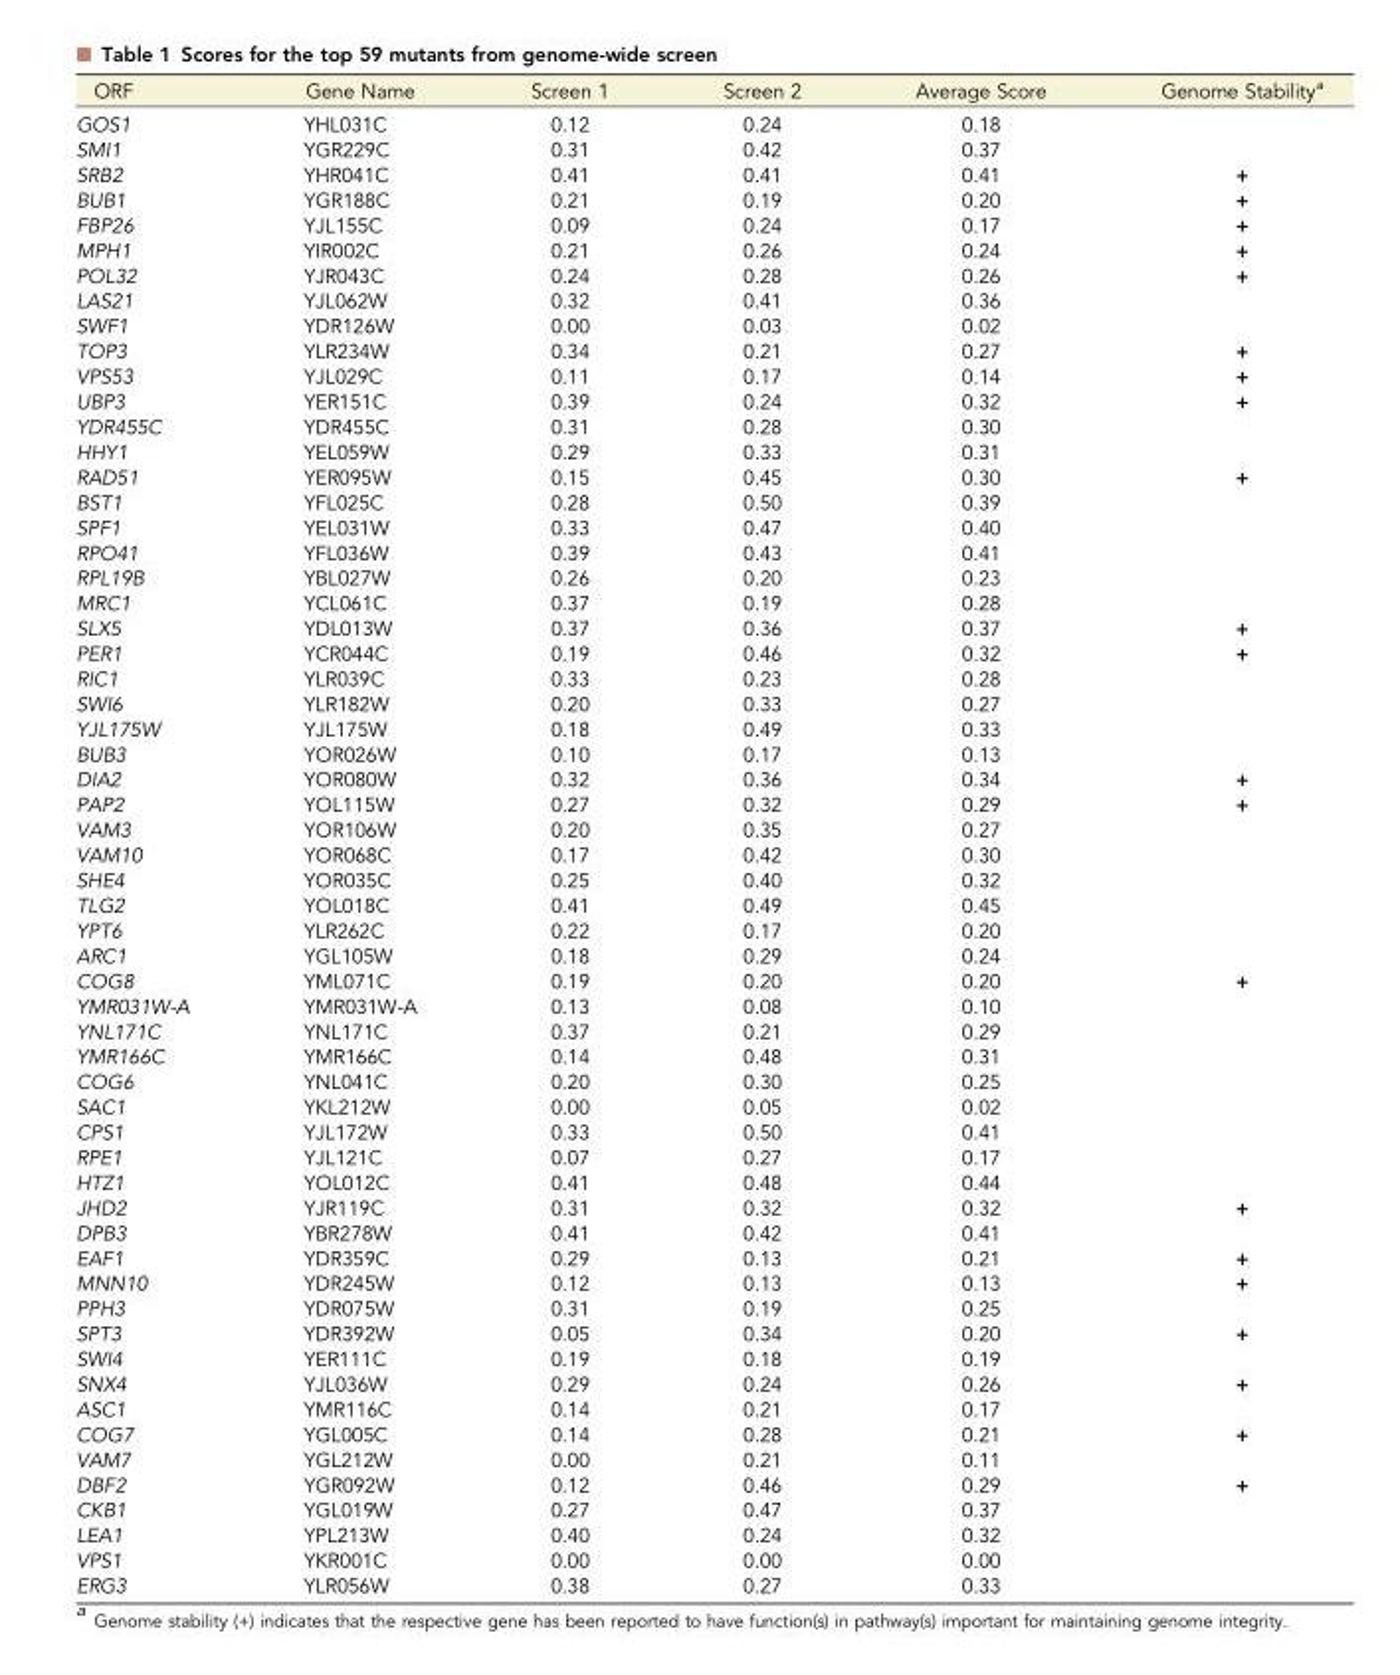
<table><thead><tr><td>ORF</td><td>Gene Name</td><td>Screen 1</td><td>Screen 2</td><td>Average Score</td><td>Genome Stabilitya</td></tr></thead><tbody><tr><td>GOS1</td><td>YHL031C</td><td>0.12</td><td>0.24</td><td>0.18</td><td></td></tr><tr><td>SMI1</td><td>YGR229C</td><td>0.31</td><td>0.42</td><td>0.37</td><td></td></tr><tr><td>SRB2</td><td>YHR041C</td><td>0.41</td><td>0.41</td><td>0.41</td><td>+</td></tr><tr><td>BUB1</td><td>YGR188C</td><td>0.21</td><td>0.19</td><td>0.20</td><td>+</td></tr><tr><td>FBP26</td><td>YJL155C</td><td>0.09</td><td>0.24</td><td>0.17</td><td>+</td></tr><tr><td>MPH1</td><td>YIR002C</td><td>0.21</td><td>0.26</td><td>0.24</td><td>+</td></tr><tr><td>POL32</td><td>YJR043C</td><td>0.24</td><td>0.28</td><td>0.26</td><td>+</td></tr><tr><td>LAS21</td><td>YJL062W</td><td>0.32</td><td>0.41</td><td>0.36</td><td></td></tr><tr><td>SWF1</td><td>YDR126W</td><td>0.00</td><td>0.03</td><td>0.02</td><td></td></tr><tr><td>TOP3</td><td>YLR234W</td><td>0.34</td><td>0.21</td><td>0.27</td><td>+</td></tr><tr><td>VPS53</td><td>YJL029C</td><td>0.11</td><td>0.17</td><td>0.14</td><td>+</td></tr><tr><td>UBP3</td><td>YER151C</td><td>0.39</td><td>0.24</td><td>0.32</td><td>+</td></tr><tr><td>YDR455C</td><td>YDR455C</td><td>0.31</td><td>0.28</td><td>0.30</td><td></td></tr><tr><td>HHY1</td><td>YEL059W</td><td>0.29</td><td>0.33</td><td>0.31</td><td></td></tr><tr><td>RAD51</td><td>YER095W</td><td>0.15</td><td>0.45</td><td>0.30</td><td>+</td></tr><tr><td>BST1</td><td>YFL025C</td><td>0.28</td><td>0.50</td><td>0.39</td><td></td></tr><tr><td>SPF1</td><td>YEL031W</td><td>0.33</td><td>0.47</td><td>0.40</td><td></td></tr><tr><td>RPO41</td><td>YFL036W</td><td>0.39</td><td>0.43</td><td>0.41</td><td></td></tr><tr><td>RPL19B</td><td>YBL027W</td><td>0.26</td><td>0.20</td><td>0.23</td><td></td></tr><tr><td>MRC1</td><td>YCL061C</td><td>0.37</td><td>0.19</td><td>0.28</td><td></td></tr><tr><td>SLX5</td><td>YDL013W</td><td>0.37</td><td>0.36</td><td>0.37</td><td>+</td></tr><tr><td>PER1</td><td>YCR044C</td><td>0.19</td><td>0.46</td><td>0.32</td><td>+</td></tr><tr><td>RIC1</td><td>YLR039C</td><td>0.33</td><td>0.23</td><td>0.28</td><td></td></tr><tr><td>SWI6</td><td>YLR182W</td><td>0.20</td><td>0.33</td><td>0.27</td><td></td></tr><tr><td>YJL175W</td><td>YJL175W</td><td>0.18</td><td>0.49</td><td>0.33</td><td></td></tr><tr><td>BUB3</td><td>YOR026W</td><td>0.10</td><td>0.17</td><td>0.13</td><td></td></tr><tr><td>DIA2</td><td>YOR080W</td><td>0.32</td><td>0.36</td><td>0.34</td><td>+</td></tr><tr><td>PAP2</td><td>YOL115W</td><td>0.27</td><td>0.32</td><td>0.29</td><td>+</td></tr><tr><td>VAM3</td><td>YOR106W</td><td>0.20</td><td>0.35</td><td>0.27</td><td></td></tr><tr><td>VAM10</td><td>YOR068C</td><td>0.17</td><td>0.42</td><td>0.30</td><td></td></tr><tr><td>SHE4</td><td>YOR035C</td><td>0.25</td><td>0.40</td><td>0.32</td><td></td></tr><tr><td>TLG2</td><td>YOL018C</td><td>0.41</td><td>0.49</td><td>0.45</td><td></td></tr><tr><td>YPT6</td><td>YLR262C</td><td>0.22</td><td>0.17</td><td>0.20</td><td></td></tr><tr><td>ARC1</td><td>YGL105W</td><td>0.18</td><td>0.29</td><td>0.24</td><td></td></tr><tr><td>COG8</td><td>YML071C</td><td>0.19</td><td>0.20</td><td>0.20</td><td>+</td></tr><tr><td>YMR031W-A</td><td>YMR031W-A</td><td>0.13</td><td>0.08</td><td>0.10</td><td></td></tr><tr><td>YNL171C</td><td>YNL171C</td><td>0.37</td><td>0.21</td><td>0.29</td><td></td></tr><tr><td>YMR166C</td><td>YMR166C</td><td>0.14</td><td>0.48</td><td>0.31</td><td></td></tr><tr><td>COG6</td><td>YNL041C</td><td>0.20</td><td>0.30</td><td>0.25</td><td></td></tr><tr><td>SAC1</td><td>YKL212W</td><td>0.00</td><td>0.05</td><td>0.02</td><td></td></tr><tr><td>CPS1</td><td>YJL172W</td><td>0.33</td><td>0.50</td><td>0.41</td><td></td></tr><tr><td>RPE1</td><td>YJL121C</td><td>0.07</td><td>0.27</td><td>0.17</td><td></td></tr><tr><td>HTZ1</td><td>YOL012C</td><td>0.41</td><td>0.48</td><td>0.44</td><td></td></tr><tr><td>JHD2</td><td>YJR119C</td><td>0.31</td><td>0.32</td><td>0.32</td><td>+</td></tr><tr><td>DPB3</td><td>YBR278W</td><td>0.41</td><td>0.42</td><td>0.41</td><td></td></tr><tr><td>EAF1</td><td>YDR359C</td><td>0.29</td><td>0.13</td><td>0.21</td><td>+</td></tr><tr><td>MNN10</td><td>YDR245W</td><td>0.12</td><td>0.13</td><td>0.13</td><td>+</td></tr><tr><td>PPH3</td><td>YDR075W</td><td>0.31</td><td>0.19</td><td>0.25</td><td></td></tr><tr><td>SPT3</td><td>YDR392W</td><td>0.05</td><td>0.34</td><td>0.20</td><td>+</td></tr><tr><td>SWI4</td><td>YER111C</td><td>0.19</td><td>0.18</td><td>0.19</td><td></td></tr><tr><td>SNX4</td><td>YJL036W</td><td>0.29</td><td>0.24</td><td>0.26</td><td>+</td></tr><tr><td>ASC1</td><td>YMR116C</td><td>0.14</td><td>0.21</td><td>0.17</td><td></td></tr><tr><td>COG7</td><td>YGL005C</td><td>0.14</td><td>0.28</td><td>0.21</td><td>+</td></tr><tr><td>VAM7</td><td>YGL212W</td><td>0.00</td><td>0.21</td><td>0.11</td><td></td></tr><tr><td>DBF2</td><td>YGR092W</td><td>0.12</td><td>0.46</td><td>0.29</td><td>+</td></tr><tr><td>CKB1</td><td>YGL019W</td><td>0.27</td><td>0.47</td><td>0.37</td><td></td></tr><tr><td>LEA1</td><td>YPL213W</td><td>0.40</td><td>0.24</td><td>0.32</td><td></td></tr><tr><td>VPS1</td><td>YKR001C</td><td>0.00</td><td>0.00</td><td>0.00</td><td></td></tr><tr><td>ERG3</td><td>YLR056W</td><td>0.38</td><td>0.27</td><td>0.33</td><td></td></tr></tbody></table>